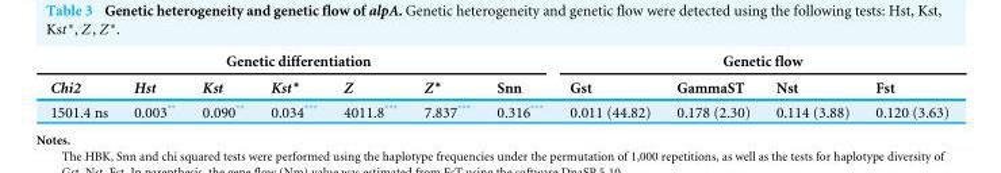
<table><thead><tr><td colspan="7">Genetic differentiation</td><td colspan="4">Genetic flow</td></tr><tr><td>Chi2</td><td>Hst</td><td>Kst</td><td>Kst ∗</td><td>Z</td><td>Z ∗</td><td>Snn</td><td>Gst</td><td>GammaST</td><td>Nst</td><td>Fst</td></tr></thead><tbody><tr><td>1501.4 ns</td><td>0.003**</td><td>0.090**</td><td>0.034***</td><td>4011.8***</td><td>7.837***</td><td>0.316***</td><td>0.011 (44.82)</td><td>0.178 (2.30)</td><td>0.114 (3.88)</td><td>0.120 (3.63)</td></tr></tbody></table>